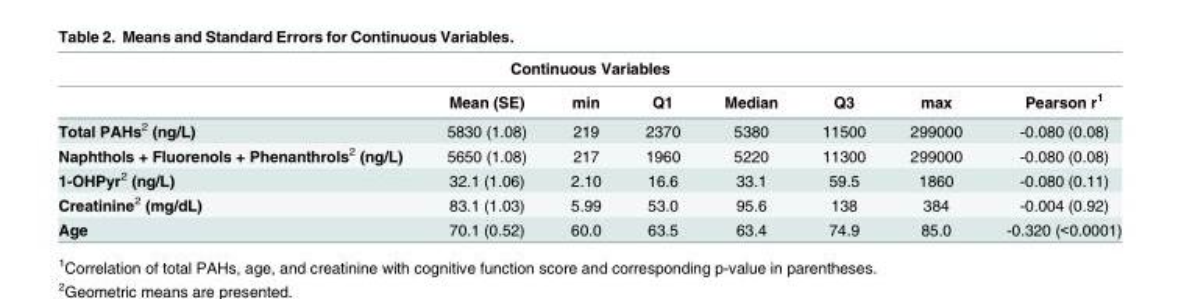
<table><thead><tr><td colspan="8">Continuous Variables</td></tr><tr><td></td><td>Mean (SE)</td><td>min</td><td>Q1</td><td>Median</td><td>Q3</td><td>max</td><td>Pearson r<sup>1</sup></td></tr></thead><tbody><tr><td>Total PAHs<sup>2</sup> (ng/L)</td><td>5830 (1.08)</td><td>219</td><td>2370</td><td>5380</td><td>11500</td><td>299000</td><td>-0.080 (0.08)</td></tr><tr><td>Naphthols + Fluorenols + Phenanthrols<sup>2</sup> (ng/L)</td><td>5650 (1.08)</td><td>217</td><td>1960</td><td>5220</td><td>11300</td><td>299000</td><td>-0.080 (0.08)</td></tr><tr><td>1-OHPyr<sup>2</sup> (ng/L)</td><td>32.1 (1.06)</td><td>2.10</td><td>16.6</td><td>33.1</td><td>59.5</td><td>1860</td><td>-0.080 (0.11)</td></tr><tr><td>Creatinine<sup>2</sup> (mg/dL)</td><td>83.1 (1.03)</td><td>5.99</td><td>53.0</td><td>95.6</td><td>138</td><td>384</td><td>-0.004 (0.92)</td></tr><tr><td>Age</td><td>70.1 (0.52)</td><td>60.0</td><td>63.5</td><td>63.4</td><td>74.9</td><td>85.0</td><td>-0.320 (&lt;0.0001)</td></tr></tbody></table>